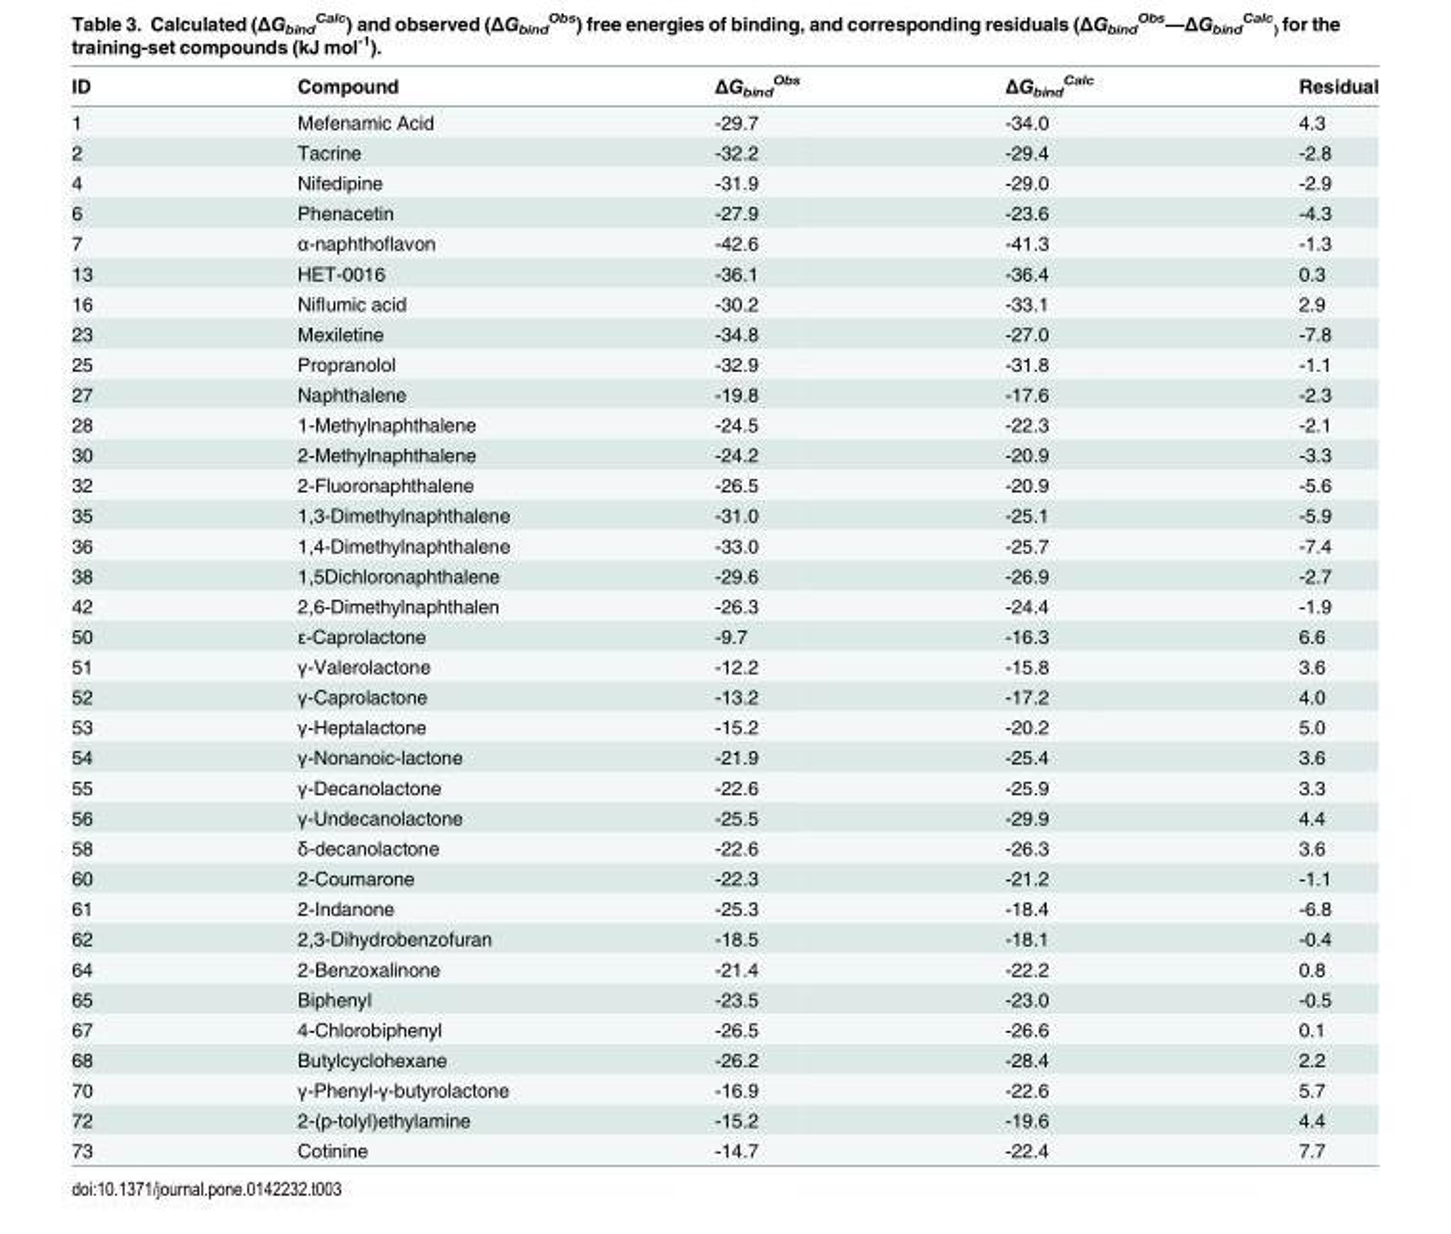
<table><thead><tr><td>ID</td><td>Compound</td><td>ΔG<sub>bind</sub> <sup>Obs</sup></td><td>ΔG<sub>bind</sub> <sup>Calc</sup></td><td>Residual</td></tr></thead><tbody><tr><td>1</td><td>Mefenamic Acid</td><td>-29.7</td><td>-34.0</td><td>4.3</td></tr><tr><td>2</td><td>Tacrine</td><td>-32.2</td><td>-29.4</td><td>-2.8</td></tr><tr><td>4</td><td>Nifedipine</td><td>-31.9</td><td>-29.0</td><td>-2.9</td></tr><tr><td>6</td><td>Phenacetin</td><td>-27.9</td><td>-23.6</td><td>-4.3</td></tr><tr><td>7</td><td>α-naphthoflavon</td><td>-42.6</td><td>-41.3</td><td>-1.3</td></tr><tr><td>13</td><td>HET-0016</td><td>-36.1</td><td>-36.4</td><td>0.3</td></tr><tr><td>16</td><td>Niflumic acid</td><td>-30.2</td><td>-33.1</td><td>2.9</td></tr><tr><td>23</td><td>Mexiletine</td><td>-34.8</td><td>-27.0</td><td>-7.8</td></tr><tr><td>25</td><td>Propranolol</td><td>-32.9</td><td>-31.8</td><td>-1.1</td></tr><tr><td>27</td><td>Naphthalene</td><td>-19.8</td><td>-17.6</td><td>-2.3</td></tr><tr><td>28</td><td>1-Methylnaphthalene</td><td>-24.5</td><td>-22.3</td><td>-2.1</td></tr><tr><td>30</td><td>2-Methylnaphthalene</td><td>-24.2</td><td>-20.9</td><td>-3.3</td></tr><tr><td>32</td><td>2-Fluoronaphthalene</td><td>-26.5</td><td>-20.9</td><td>-5.6</td></tr><tr><td>35</td><td>1,3-Dimethylnaphthalene</td><td>-31.0</td><td>-25.1</td><td>-5.9</td></tr><tr><td>36</td><td>1,4-Dimethylnaphthalene</td><td>-33.0</td><td>-25.7</td><td>-7.4</td></tr><tr><td>38</td><td>1,5Dichloronaphthalene</td><td>-29.6</td><td>-26.9</td><td>-2.7</td></tr><tr><td>42</td><td>2,6-Dimethylnaphthalen</td><td>-26.3</td><td>-24.4</td><td>-1.9</td></tr><tr><td>50</td><td>ε-Caprolactone</td><td>-9.7</td><td>-16.3</td><td>6.6</td></tr><tr><td>51</td><td>γ-Valerolactone</td><td>-12.2</td><td>-15.8</td><td>3.6</td></tr><tr><td>52</td><td>γ-Caprolactone</td><td>-13.2</td><td>-17.2</td><td>4.0</td></tr><tr><td>53</td><td>γ-Heptalactone</td><td>-15.2</td><td>-20.2</td><td>5.0</td></tr><tr><td>54</td><td>γ-Nonanoic-lactone</td><td>-21.9</td><td>-25.4</td><td>3.6</td></tr><tr><td>55</td><td>γ-Decanolactone</td><td>-22.6</td><td>-25.9</td><td>3.3</td></tr><tr><td>56</td><td>γ-Undecanolactone</td><td>-25.5</td><td>-29.9</td><td>4.4</td></tr><tr><td>58</td><td>δ-decanolactone</td><td>-22.6</td><td>-26.3</td><td>3.6</td></tr><tr><td>60</td><td>2-Coumarone</td><td>-22.3</td><td>-21.2</td><td>-1.1</td></tr><tr><td>61</td><td>2-Indanone</td><td>-25.3</td><td>-18.4</td><td>-6.8</td></tr><tr><td>62</td><td>2,3-Dihydrobenzofuran</td><td>-18.5</td><td>-18.1</td><td>-0.4</td></tr><tr><td>64</td><td>2-Benzoxalinone</td><td>-21.4</td><td>-22.2</td><td>0.8</td></tr><tr><td>65</td><td>Biphenyl</td><td>-23.5</td><td>-23.0</td><td>-0.5</td></tr><tr><td>67</td><td>4-Chlorobiphenyl</td><td>-26.5</td><td>-26.6</td><td>0.1</td></tr><tr><td>68</td><td>Butylcyclohexane</td><td>-26.2</td><td>-28.4</td><td>2.2</td></tr><tr><td>70</td><td>γ-Phenyl-γ-butyrolactone</td><td>-16.9</td><td>-22.6</td><td>5.7</td></tr><tr><td>72</td><td>2-(p-tolyl)ethylamine</td><td>-15.2</td><td>-19.6</td><td>4.4</td></tr><tr><td>73</td><td>Cotinine</td><td>-14.7</td><td>-22.4</td><td>7.7</td></tr></tbody></table>